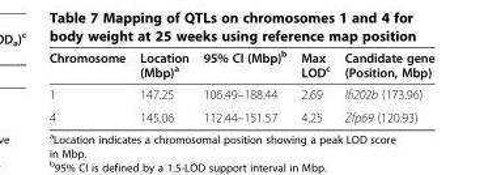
<table><thead><tr><td>Chromosome</td><td>Location (Mbp)<sup>a</sup></td><td>95% CI (Mbp)<sup>b</sup></td><td>Max LOD<sup>c</sup></td><td>Candidate gene (Position, Mbp)</td></tr></thead><tbody><tr><td>1</td><td>147.25</td><td>106.49–188.44</td><td>2.69</td><td>Ifi202b (173.96)</td></tr><tr><td>4</td><td>145.06</td><td>112.44–151.57</td><td>4.25</td><td>Zfp69 (120.93)</td></tr></tbody></table>